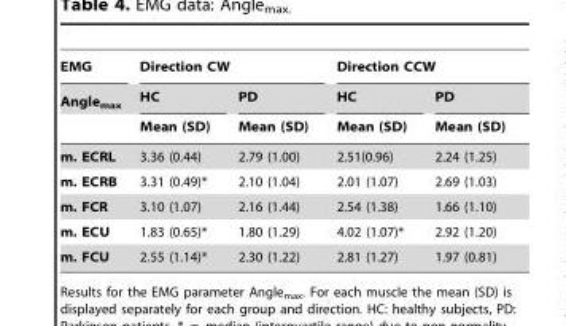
<table><thead><tr><td rowspan="3">EMG Angle<sub>max</sub></td><td colspan="2">Direction CW</td><td colspan="2">Direction CCW</td></tr><tr><td rowspan="2">HC Mean (SD)</td><td rowspan="2">PD Mean (SD)</td><td rowspan="2">HC Mean (SD)</td><td rowspan="2">PD Mean (SD)</td></tr><tr></tr></thead><tbody><tr><td>m. ECRL</td><td>3.36 (0.44)</td><td>2.79 (1.00)</td><td>2.51(0.96)</td><td>2.24 (1.25)</td></tr><tr><td>m. ECRB</td><td>3.31 (0.49)*</td><td>2.10 (1.04)</td><td>2.01 (1.07)</td><td>2.69 (1.03)</td></tr><tr><td>m. FCR</td><td>3.10 (1.07)</td><td>2.16 (1.44)</td><td>2.54 (1.38)</td><td>1.66 (1.10)</td></tr><tr><td>m. ECU</td><td>1.83 (0.65)*</td><td>1.80 (1.29)</td><td>4.02 (1.07)*</td><td>2.92 (1.20)</td></tr><tr><td>m. FCU</td><td>2.55 (1.14)*</td><td>2.30 (1.22)</td><td>2.81 (1.27)</td><td>1.97 (0.81)</td></tr></tbody></table>